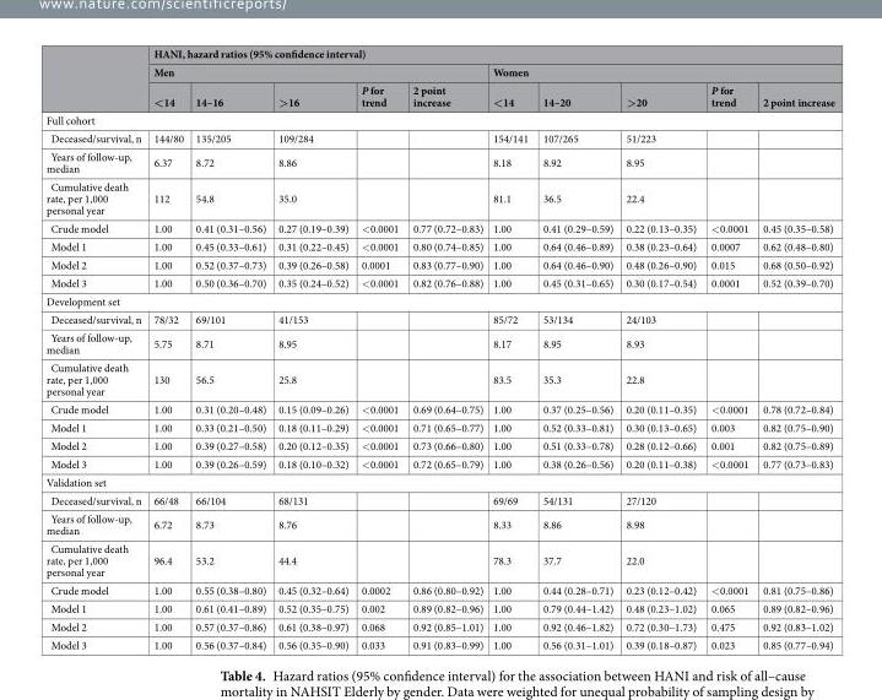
<table><thead><tr><td rowspan="3"></td><td colspan="10">HANI, hazard ratios (95% confidence interval)</td></tr><tr><td colspan="5">Men</td><td colspan="5">Women</td></tr><tr><td>&lt;14</td><td>14–16</td><td>&gt;16</td><td>P for trend</td><td>2 point increase</td><td>&lt;14</td><td>14–20</td><td>&gt;20</td><td>P for trend</td><td>2 point increase</td></tr></thead><tbody><tr><td colspan="11">Full cohort</td></tr><tr><td>Deceased/survival, n</td><td>144/80</td><td>135/205</td><td>109/284</td><td></td><td></td><td>154/141</td><td>107/265</td><td>51/223</td><td></td><td></td></tr><tr><td>Years of follow-up, median</td><td>6.37</td><td>8.72</td><td>8.86</td><td></td><td></td><td>8.18</td><td>8.92</td><td>8.95</td><td></td><td></td></tr><tr><td>Cumulative death rate, per 1,000 personal year</td><td>112</td><td>54.8</td><td>35.0</td><td></td><td></td><td>81.1</td><td>36.5</td><td>22.4</td><td></td><td></td></tr><tr><td>Crude model</td><td>1.00</td><td>0.41 (0.31–0.56)</td><td>0.27 (0.19–0.39)</td><td>&lt;0.0001</td><td>0.77 (0.72–0.83)</td><td>1.00</td><td>0.41 (0.29–0.59)</td><td>0.22 (0.13–0.35)</td><td>&lt;0.0001</td><td>0.45 (0.35–0.58)</td></tr><tr><td>Model 1</td><td>1.00</td><td>0.45 (0.33–0.61)</td><td>0.31 (0.22–0.45)</td><td>&lt;0.0001</td><td>0.80 (0.74–0.85)</td><td>1.00</td><td>0.64 (0.46–0.89)</td><td>0.38 (0.23–0.64)</td><td>0.0007</td><td>0.62 (0.48–0.80)</td></tr><tr><td>Model 2</td><td>1.00</td><td>0.52 (0.37–0.73)</td><td>0.39 (0.26–0.58)</td><td>0.0001</td><td>0.83 (0.77–0.90)</td><td>1.00</td><td>0.64 (0.46–0.90)</td><td>0.48 (0.26–0.90)</td><td>0.015</td><td>0.68 (0.50–0.92)</td></tr><tr><td>Model 3</td><td>1.00</td><td>0.50 (0.36–0.70)</td><td>0.35 (0.24–0.52)</td><td>&lt;0.0001</td><td>0.82 (0.76–0.88)</td><td>1.00</td><td>0.45 (0.31–0.65)</td><td>0.30 (0.17–0.54)</td><td>0.0001</td><td>0.52 (0.39–0.70)</td></tr><tr><td colspan="11">Development set</td></tr><tr><td>Deceased/survival, n</td><td>78/32</td><td>69/101</td><td>41/153</td><td></td><td></td><td>85/72</td><td>53/134</td><td>24/103</td><td></td><td></td></tr><tr><td>Years of follow-up, median</td><td>5.75</td><td>8.71</td><td>8.95</td><td></td><td></td><td>8.17</td><td>8.95</td><td>8.93</td><td></td><td></td></tr><tr><td>Cumulative death rate, per 1,000 personal year</td><td>130</td><td>56.5</td><td>25.8</td><td></td><td></td><td>83.5</td><td>35.3</td><td>22.8</td><td></td><td></td></tr><tr><td>Crude model</td><td>1.00</td><td>0.31 (0.20–0.48)</td><td>0.15 (0.09–0.26)</td><td>&lt;0.0001</td><td>0.69 (0.64–0.75)</td><td>1.00</td><td>0.37 (0.25–0.56)</td><td>0.20 (0.11–0.35)</td><td>&lt;0.0001</td><td>0.78 (0.72–0.84)</td></tr><tr><td>Model 1</td><td>1.00</td><td>0.33 (0.21–0.50)</td><td>0.18 (0.11–0.29)</td><td>&lt;0.0001</td><td>0.71 (0.65–0.77)</td><td>1.00</td><td>0.52 (0.33–0.81)</td><td>0.30 (0.13–0.65)</td><td>0.003</td><td>0.82 (0.75–0.90)</td></tr><tr><td>Model 2</td><td>1.00</td><td>0.39 (0.27–0.58)</td><td>0.20 (0.12–0.35)</td><td>&lt;0.0001</td><td>0.73 (0.66–0.80)</td><td>1.00</td><td>0.51 (0.33–0.78)</td><td>0.28 (0.12–0.66)</td><td>0.001</td><td>0.82 (0.75–0.89)</td></tr><tr><td>Model 3</td><td>1.00</td><td>0.39 (0.26–0.59)</td><td>0.18 (0.10–0.32)</td><td>&lt;0.0001</td><td>0.72 (0.65–0.79)</td><td>1.00</td><td>0.38 (0.26–0.56)</td><td>0.20 (0.11–0.38)</td><td>&lt;0.0001</td><td>0.77 (0.73–0.83)</td></tr><tr><td colspan="11">Validation set</td></tr><tr><td>Deceased/survival, n</td><td>66/48</td><td>66/104</td><td>68/131</td><td></td><td></td><td>69/69</td><td>54/131</td><td>27/120</td><td></td><td></td></tr><tr><td>Years of follow-up, median</td><td>6.72</td><td>8.73</td><td>8.76</td><td></td><td></td><td>8.33</td><td>8.86</td><td>8.98</td><td></td><td></td></tr><tr><td>Cumulative death rate, per 1,000 personal year</td><td>96.4</td><td>53.2</td><td>44.4</td><td></td><td></td><td>78.3</td><td>37.7</td><td>22.0</td><td></td><td></td></tr><tr><td>Crude model</td><td>1.00</td><td>0.55 (0.38–0.80)</td><td>0.45 (0.32–0.64)</td><td>0.0002</td><td>0.86 (0.80–0.92)</td><td>1.00</td><td>0.44 (0.28–0.71)</td><td>0.23 (0.12–0.42)</td><td>&lt;0.0001</td><td>0.81 (0.75–0.86)</td></tr><tr><td>Model 1</td><td>1.00</td><td>0.61 (0.41–0.89)</td><td>0.52 (0.35–0.75)</td><td>0.002</td><td>0.89 (0.82–0.96)</td><td>1.00</td><td>0.79 (0.44–1.42)</td><td>0.48 (0.23–1.02)</td><td>0.065</td><td>0.89 (0.82–0.96)</td></tr><tr><td>Model 2</td><td>1.00</td><td>0.57 (0.37–0.86)</td><td>0.61 (0.38–0.97)</td><td>0.068</td><td>0.92 (0.85–1.01)</td><td>1.00</td><td>0.92 (0.46–1.82)</td><td>0.72 (0.30–1.73)</td><td>0.475</td><td>0.92 (0.83–1.02)</td></tr><tr><td>Model 3</td><td>1.00</td><td>0.56 (0.37–0.84)</td><td>0.56 (0.35–0.90)</td><td>0.033</td><td>0.91 (0.83–0.99)</td><td>1.00</td><td>0.56 (0.31–1.01)</td><td>0.39 (0.18–0.87)</td><td>0.023</td><td>0.85 (0.77–0.94)</td></tr></tbody></table>